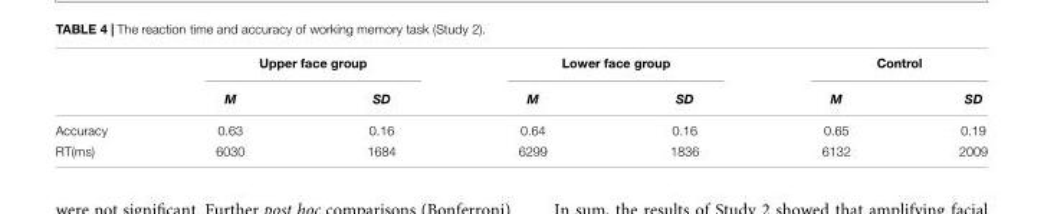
<table><thead><tr><td rowspan="2"></td><td colspan="2">Upper face group</td><td colspan="2">Lower face group</td><td colspan="2">Control</td></tr><tr><td>M</td><td>SD</td><td>M</td><td>SD</td><td>M</td><td>SD</td></tr></thead><tbody><tr><td>Accuracy</td><td>0.63</td><td>0.16</td><td>0.64</td><td>0.16</td><td>0.65</td><td>0.19</td></tr><tr><td>RT(ms)</td><td>6030</td><td>1684</td><td>6299</td><td>1836</td><td>6132</td><td>2009</td></tr></tbody></table>